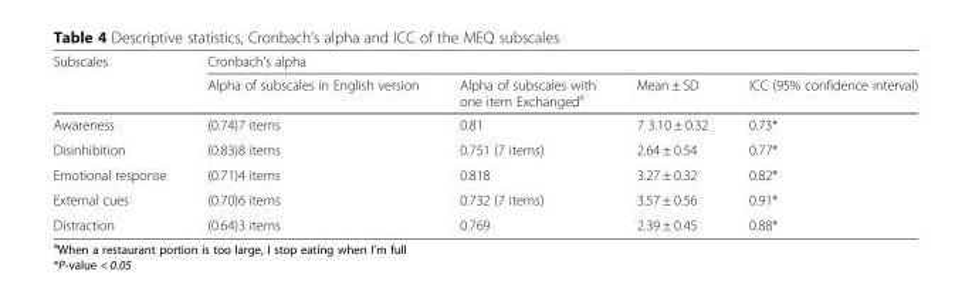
<table><thead><tr><td rowspan="2">Subscales</td><td colspan="4">Cronbach’s alpha</td></tr><tr><td>Alpha of subscales in English version</td><td>Alpha of subscales with one item Exchanged<sup>a</sup></td><td>Mean ± SD</td><td>ICC (95% confidence interval)</td></tr></thead><tbody><tr><td>Awareness</td><td>(0.74)7 items</td><td>0.81</td><td>7 3.10 ± 0.32</td><td>0.73*</td></tr><tr><td>Disinhibition</td><td>(0.83)8 items</td><td>0.751 (7 items)</td><td>2.64 ± 0.54</td><td>0.77*</td></tr><tr><td>Emotional response</td><td>(0.71)4 items</td><td>0.818</td><td>3.27 ± 0.32</td><td>0.82*</td></tr><tr><td>External cues</td><td>(0.70)6 items</td><td>0.732 (7 items)</td><td>3.57 ± 0.56</td><td>0.91*</td></tr><tr><td>Distraction</td><td>(0.64)3 items</td><td>0.769</td><td>2.39 ± 0.45</td><td>0.88*</td></tr></tbody></table>